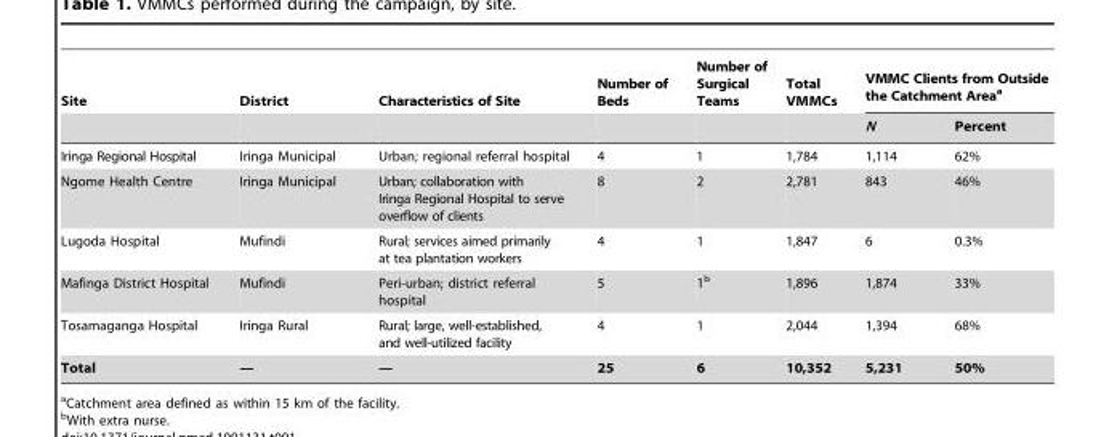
<table><thead><tr><td rowspan="2">Site</td><td rowspan="2">District</td><td rowspan="2">Characteristics of Site</td><td rowspan="2">Number of Beds</td><td rowspan="2">Number of Surgical Teams</td><td rowspan="2">Total VMMCs</td><td colspan="2">VMMC Clients from Outside the Catchment Area<sup>a</sup></td></tr><tr><td>N</td><td>Percent</td></tr></thead><tbody><tr><td>Iringa Regional Hospital</td><td>Iringa Municipal</td><td>Urban; regional referral hospital</td><td>4</td><td>1</td><td>1,784</td><td>1,114</td><td>62%</td></tr><tr><td>Ngome Health Centre</td><td>Iringa Municipal</td><td>Urban; collaboration with Iringa Regional Hospital to serve overflow of clients</td><td>8</td><td>2</td><td>2,781</td><td>843</td><td>46%</td></tr><tr><td>Lugoda Hospital</td><td>Mufindi</td><td>Rural; services aimed primarily at tea plantation workers</td><td>4</td><td>1</td><td>1,847</td><td>6</td><td>0.3%</td></tr><tr><td>Mafinga District Hospital</td><td>Mufindi</td><td>Peri-urban; district referral hospital</td><td>5</td><td>1<sup>b</sup></td><td>1,896</td><td>1,874</td><td>33%</td></tr><tr><td>Tosamaganga Hospital</td><td>Iringa Rural</td><td>Rural; large, well-established, and well-utilized facility</td><td>4</td><td>1</td><td>2,044</td><td>1,394</td><td>68%</td></tr><tr><td>Total</td><td>—</td><td>—</td><td>25</td><td>6</td><td>10,352</td><td>5,231</td><td>50%</td></tr></tbody></table>